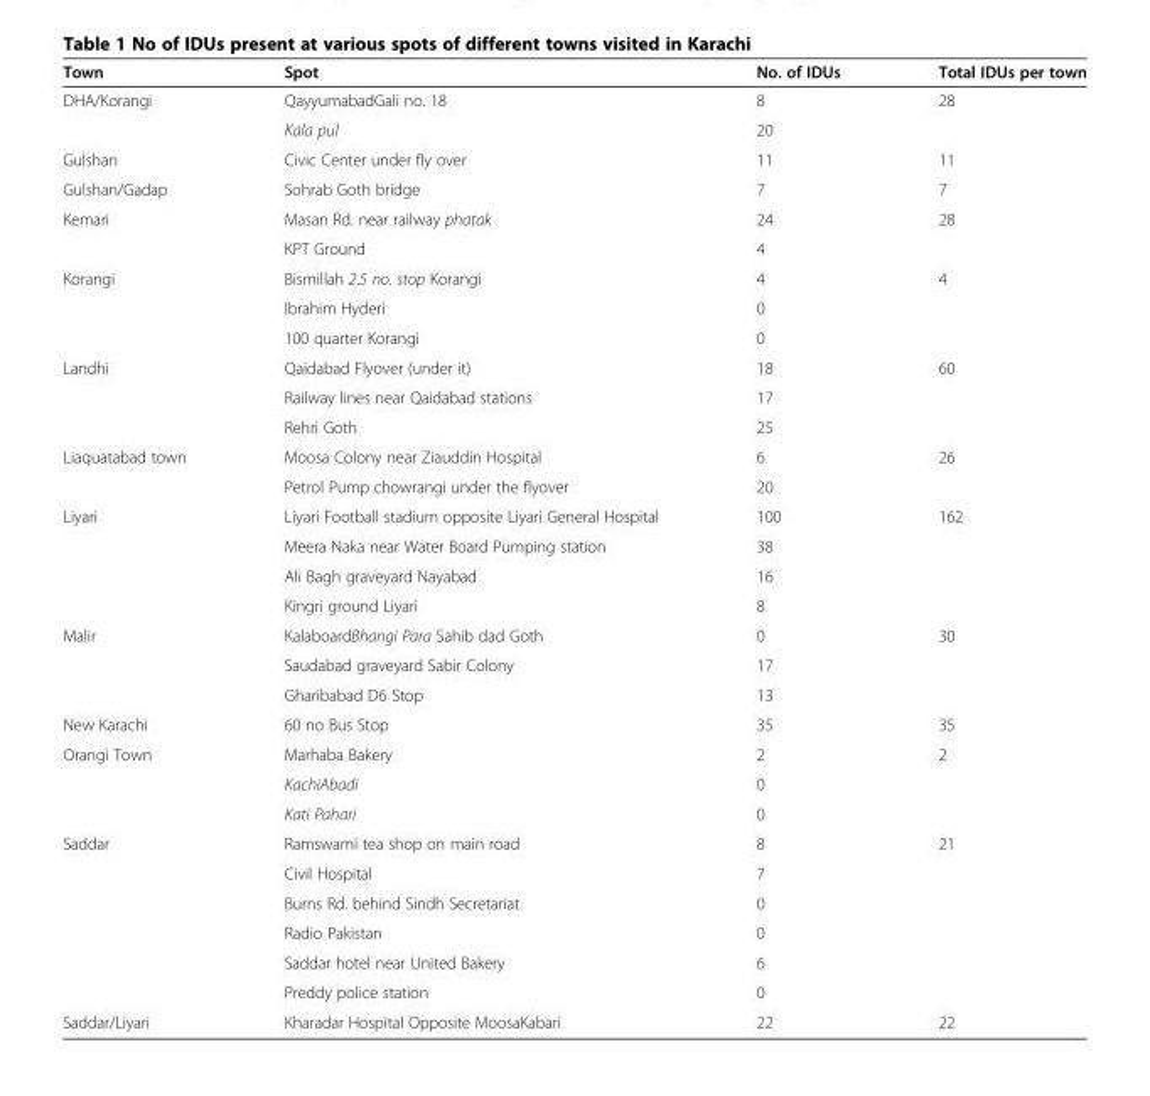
<table><thead><tr><td>Town</td><td>Spot</td><td>No. of IDUs</td><td>Total IDUs per town</td></tr></thead><tbody><tr><td rowspan="2">DHA/Korangi</td><td>QayyumabadGali no. 18</td><td>8</td><td>28</td></tr><tr><td>Kala pul</td><td>20</td><td></td></tr><tr><td>Gulshan</td><td>Civic Center under fly over</td><td>11</td><td>11</td></tr><tr><td>Gulshan/Gadap</td><td>Sohrab Goth bridge</td><td>7</td><td>7</td></tr><tr><td rowspan="2">Kemari</td><td>Masan Rd. near railway phatak</td><td>24</td><td>28</td></tr><tr><td>KPT Ground</td><td>4</td><td></td></tr><tr><td rowspan="3">Korangi</td><td>Bismillah 2.5 no. stop Korangi</td><td>4</td><td>4</td></tr><tr><td>Ibrahim Hyderi</td><td>0</td><td></td></tr><tr><td>100 quarter Korangi</td><td>0</td><td></td></tr><tr><td rowspan="3">Landhi</td><td>Qaidabad Flyover (under it)</td><td>18</td><td>60</td></tr><tr><td>Railway lines near Qaidabad stations</td><td>17</td><td></td></tr><tr><td>Rehri Goth</td><td>25</td><td></td></tr><tr><td rowspan="2">Liaquatabad town</td><td>Moosa Colony near Ziauddin Hospital</td><td>6</td><td>26</td></tr><tr><td>Petrol Pump chowrangi under the flyover</td><td>20</td><td></td></tr><tr><td rowspan="4">Liyari</td><td>Liyari Football stadium opposite Liyari General Hospital</td><td>100</td><td>162</td></tr><tr><td>Meera Naka near Water Board Pumping station</td><td>38</td><td></td></tr><tr><td>Ali Bagh graveyard Nayabad</td><td>16</td><td></td></tr><tr><td>Kingri ground Liyari</td><td>8</td><td></td></tr><tr><td rowspan="3">Malir</td><td>KalaboardBhangi Para Sahib dad Goth</td><td>0</td><td>30</td></tr><tr><td>Saudabad graveyard Sabir Colony</td><td>17</td><td></td></tr><tr><td>Gharibabad D6 Stop</td><td>13</td><td></td></tr><tr><td>New Karachi</td><td>60 no Bus Stop</td><td>35</td><td>35</td></tr><tr><td rowspan="3">Orangi Town</td><td>Marhaba Bakery</td><td>2</td><td>2</td></tr><tr><td>KachiAbadi</td><td>0</td><td></td></tr><tr><td>Kati Pahari</td><td>0</td><td></td></tr><tr><td rowspan="6">Saddar</td><td>Ramswami tea shop on main road</td><td>8</td><td>21</td></tr><tr><td>Civil Hospital</td><td>7</td><td></td></tr><tr><td>Burns Rd. behind Sindh Secretariat</td><td>0</td><td></td></tr><tr><td>Radio Pakistan</td><td>0</td><td></td></tr><tr><td>Saddar hotel near United Bakery</td><td>6</td><td></td></tr><tr><td>Preddy police station</td><td>0</td><td></td></tr><tr><td>Saddar/Liyari</td><td>Kharadar Hospital Opposite MoosaKabari</td><td>22</td><td>22</td></tr></tbody></table>